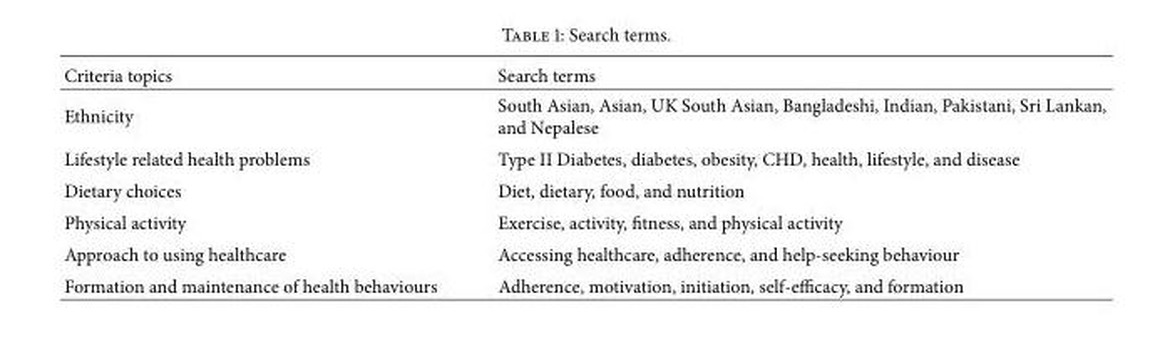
<table><thead><tr><td>Criteria topics</td><td>Search terms</td></tr></thead><tbody><tr><td>Ethnicity</td><td>South Asian, Asian, UK South Asian, Bangladeshi, Indian, Pakistani, Sri Lankan, and Nepalese</td></tr><tr><td>Lifestyle related health problems</td><td>Type II Diabetes, diabetes, obesity, CHD, health, lifestyle, and disease</td></tr><tr><td>Dietary choices</td><td>Diet, dietary, food, and nutrition</td></tr><tr><td>Physical activity</td><td>Exercise, activity, fitness, and physical activity</td></tr><tr><td>Approach to using healthcare</td><td>Accessing healthcare, adherence, and help-seeking behaviour</td></tr><tr><td>Formation and maintenance of health behaviours</td><td>Adherence, motivation, initiation, self-efficacy, and formation</td></tr></tbody></table>